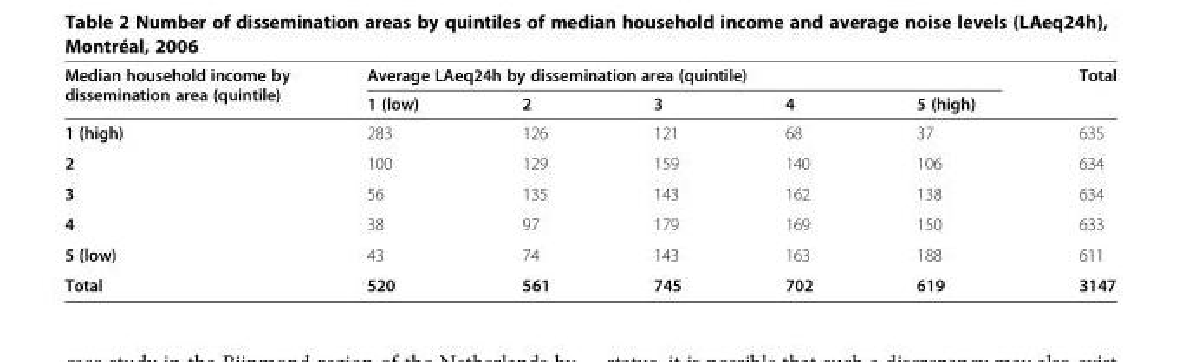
<table><thead><tr><td rowspan="2">Median household income by dissemination area (quintile)</td><td colspan="5">Average LAeq24h by dissemination area (quintile)</td><td rowspan="2">Total</td></tr><tr><td>1 (low)</td><td>2</td><td>3</td><td>4</td><td>5 (high)</td></tr></thead><tbody><tr><td>1 (high)</td><td>283</td><td>126</td><td>121</td><td>68</td><td>37</td><td>635</td></tr><tr><td>2</td><td>100</td><td>129</td><td>159</td><td>140</td><td>106</td><td>634</td></tr><tr><td>3</td><td>56</td><td>135</td><td>143</td><td>162</td><td>138</td><td>634</td></tr><tr><td>4</td><td>38</td><td>97</td><td>179</td><td>169</td><td>150</td><td>633</td></tr><tr><td>5 (low)</td><td>43</td><td>74</td><td>143</td><td>163</td><td>188</td><td>611</td></tr><tr><td>Total</td><td>520</td><td>561</td><td>745</td><td>702</td><td>619</td><td>3147</td></tr></tbody></table>